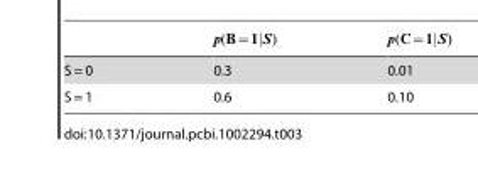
<table><tbody><tr><td>S = 0</td><td>0.3</td><td>0.01</td></tr><tr><td>S = 1</td><td>0.6</td><td>0.10</td></tr></tbody></table>